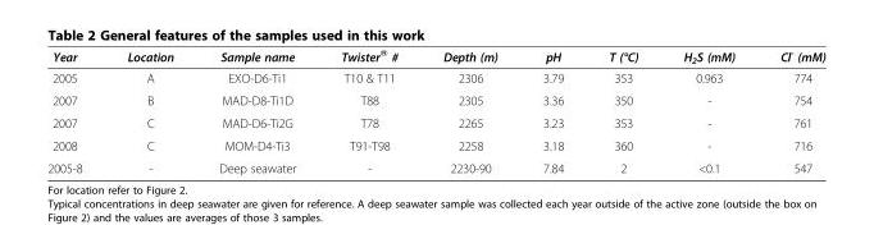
<table><thead><tr><td>Year</td><td>Location</td><td>Sample name</td><td>Twister® #</td><td>Depth (m)</td><td>pH</td><td>T (°C)</td><td>H<sub>2</sub>S (mM)</td><td>Cl<sup>-</sup> (mM)</td></tr></thead><tbody><tr><td>2005</td><td>A</td><td>EXO-D6-Ti1</td><td>T10 &amp; T11</td><td>2306</td><td>3.79</td><td>353</td><td>0.963</td><td>774</td></tr><tr><td>2007</td><td>B</td><td>MAD-D8-Ti1D</td><td>T88</td><td>2305</td><td>3.36</td><td>350</td><td>-</td><td>754</td></tr><tr><td>2007</td><td>C</td><td>MAD-D6-Ti2G</td><td>T78</td><td>2265</td><td>3.23</td><td>353</td><td>-</td><td>761</td></tr><tr><td>2008</td><td>C</td><td>MOM-D4-Ti3</td><td>T91-T98</td><td>2258</td><td>3.18</td><td>360</td><td>-</td><td>716</td></tr><tr><td>2005-8</td><td>-</td><td>Deep seawater</td><td>-</td><td>2230-90</td><td>7.84</td><td>2</td><td>&lt;0.1</td><td>547</td></tr></tbody></table>